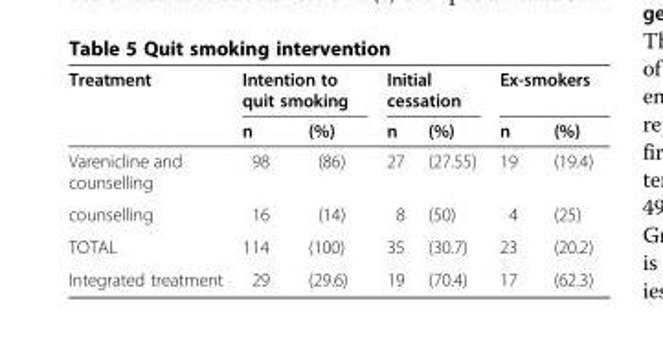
<table><thead><tr><td rowspan="2">Treatment</td><td colspan="2">Intention to quit smoking</td><td colspan="2">Initial cessation</td><td colspan="2">Ex-smokers</td></tr><tr><td>n</td><td>(%)</td><td>n</td><td>(%)</td><td>n</td><td>(%)</td></tr></thead><tbody><tr><td>Varenicline and counselling</td><td>98</td><td>(86)</td><td>27</td><td>(27.55)</td><td>19</td><td>(19.4)</td></tr><tr><td>counselling</td><td>16</td><td>(14)</td><td>8</td><td>(50)</td><td>4</td><td>(25)</td></tr><tr><td>TOTAL</td><td>114</td><td>(100)</td><td>35</td><td>(30.7)</td><td>23</td><td>(20.2)</td></tr><tr><td>Integrated treatment</td><td>29</td><td>(29.6)</td><td>19</td><td>(70.4)</td><td>17</td><td>(62.3)</td></tr></tbody></table>